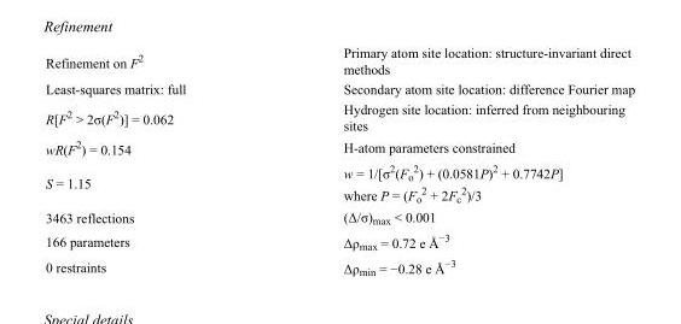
<table><tbody><tr><td>Refinement on F<sup>2</sup></td><td>Primary atom site location: structure-invariant direct methods</td></tr><tr><td>Least-squares matrix: full</td><td>Secondary atom site location: difference Fourier map</td></tr><tr><td>R[F<sup>2</sup> &gt; 2σ(F<sup>2</sup>)] = 0.062</td><td>Hydrogen site location: inferred from neighbouring sites</td></tr><tr><td>wR(F<sup>2</sup>) = 0.154</td><td>H-atom parameters constrained</td></tr><tr><td>S = 1.15</td><td>w = 1/[σ<sup>2</sup>(F<sub>o</sub> <sup>2</sup>) + (0.0581P)<sup>2</sup> + 0.7742P] where P = (F<sub>o</sub> <sup>2</sup> + 2F<sub>c</sub> <sup>2</sup>)/3</td></tr><tr><td>3463 reflections</td><td>(Δ/σ)<sub>max</sub> &lt; 0.001</td></tr><tr><td>166 parameters</td><td>Δρ<sub>max</sub> = 0.72 e Å<sup>−3</sup></td></tr><tr><td>0 restraints</td><td>Δρ<sub>min</sub> = −0.28 e Å<sup>−3</sup></td></tr></tbody></table>